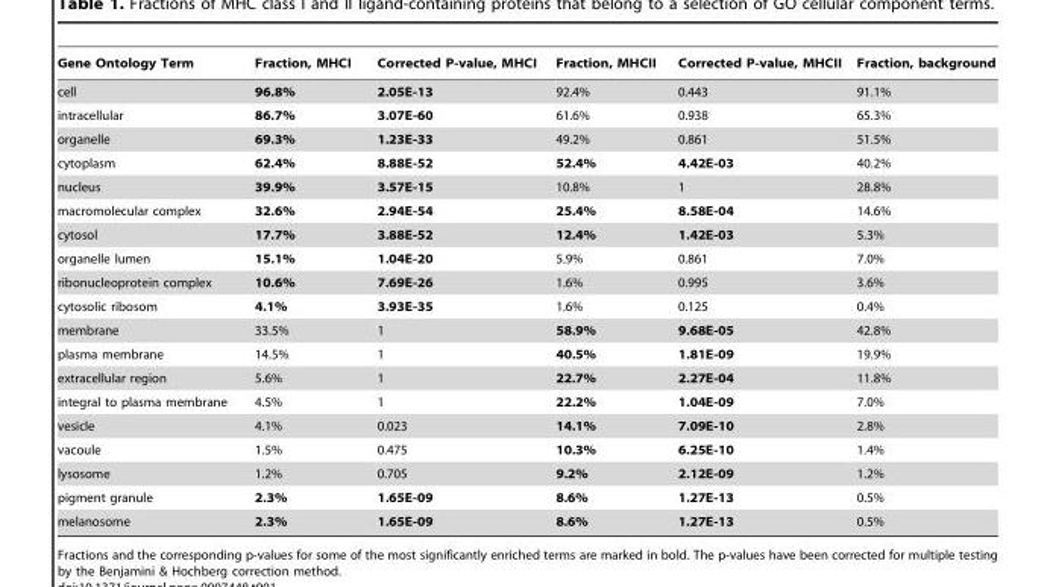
<table><thead><tr><td>Gene Ontology Term</td><td>Fraction, MHCI</td><td>Corrected P-value, MHCI</td><td>Fraction, MHCII</td><td>Corrected P-value, MHCII</td><td>Fraction, background</td></tr></thead><tbody><tr><td>cell</td><td>96.8%</td><td>2.05E-13</td><td>92.4%</td><td>0.443</td><td>91.1%</td></tr><tr><td>intracellular</td><td>86.7%</td><td>3.07E-60</td><td>61.6%</td><td>0.938</td><td>65.3%</td></tr><tr><td>organelle</td><td>69.3%</td><td>1.23E-33</td><td>49.2%</td><td>0.861</td><td>51.5%</td></tr><tr><td>cytoplasm</td><td>62.4%</td><td>8.88E-52</td><td>52.4%</td><td>4.42E-03</td><td>40.2%</td></tr><tr><td>nucleus</td><td>39.9%</td><td>3.57E-15</td><td>10.8%</td><td>1</td><td>28.8%</td></tr><tr><td>macromolecular complex</td><td>32.6%</td><td>2.94E-54</td><td>25.4%</td><td>8.58E-04</td><td>14.6%</td></tr><tr><td>cytosol</td><td>17.7%</td><td>3.88E-52</td><td>12.4%</td><td>1.42E-03</td><td>5.3%</td></tr><tr><td>organelle lumen</td><td>15.1%</td><td>1.04E-20</td><td>5.9%</td><td>0.861</td><td>7.0%</td></tr><tr><td>ribonucleoprotein complex</td><td>10.6%</td><td>7.69E-26</td><td>1.6%</td><td>0.995</td><td>3.6%</td></tr><tr><td>cytosolic ribosom</td><td>4.1%</td><td>3.93E-35</td><td>1.6%</td><td>0.125</td><td>0.4%</td></tr><tr><td>membrane</td><td>33.5%</td><td>1</td><td>58.9%</td><td>9.68E-05</td><td>42.8%</td></tr><tr><td>plasma membrane</td><td>14.5%</td><td>1</td><td>40.5%</td><td>1.81E-09</td><td>19.9%</td></tr><tr><td>extracellular region</td><td>5.6%</td><td>1</td><td>22.7%</td><td>2.27E-04</td><td>11.8%</td></tr><tr><td>integral to plasma membrane</td><td>4.5%</td><td>1</td><td>22.2%</td><td>1.04E-09</td><td>7.0%</td></tr><tr><td>vesicle</td><td>4.1%</td><td>0.023</td><td>14.1%</td><td>7.09E-10</td><td>2.8%</td></tr><tr><td>vacoule</td><td>1.5%</td><td>0.475</td><td>10.3%</td><td>6.25E-10</td><td>1.4%</td></tr><tr><td>lysosome</td><td>1.2%</td><td>0.705</td><td>9.2%</td><td>2.12E-09</td><td>1.2%</td></tr><tr><td>pigment granule</td><td>2.3%</td><td>1.65E-09</td><td>8.6%</td><td>1.27E-13</td><td>0.5%</td></tr><tr><td>melanosome</td><td>2.3%</td><td>1.65E-09</td><td>8.6%</td><td>1.27E-13</td><td>0.5%</td></tr></tbody></table>